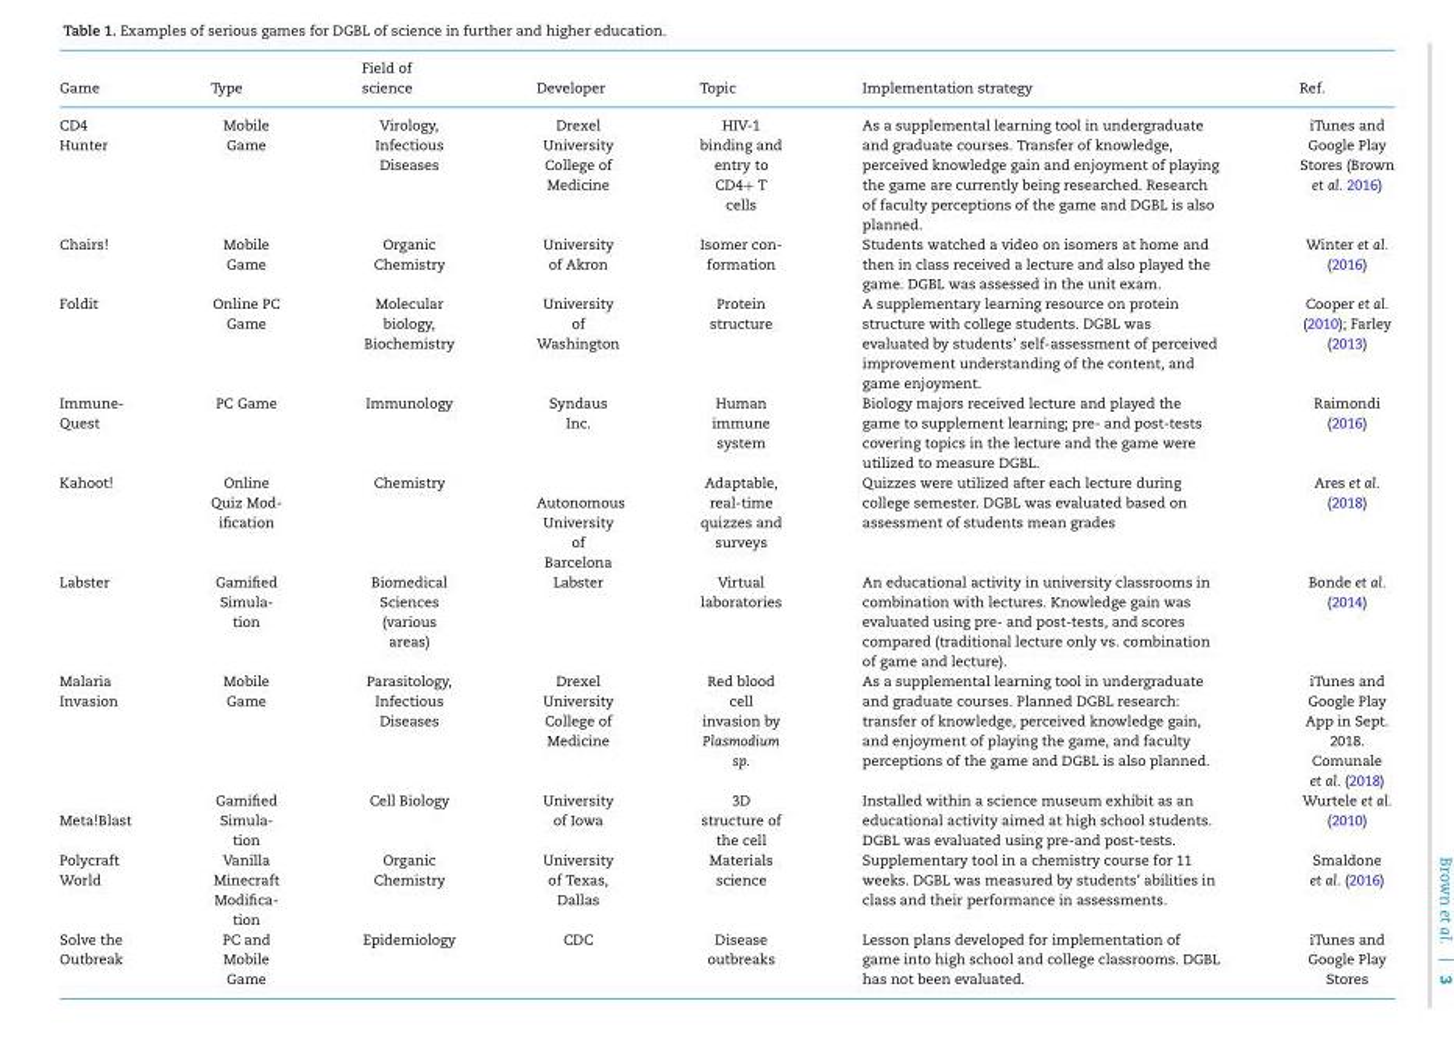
<table><thead><tr><td>Game</td><td>Type</td><td>Field of science</td><td>Developer</td><td>Topic</td><td>Implementation strategy</td><td>Ref.</td></tr></thead><tbody><tr><td>CD4 Hunter</td><td>Mobile Game</td><td>Virology, Infectious Diseases</td><td>Drexel University College of Medicine</td><td>HIV-1 binding and entry to CD4+ T cells</td><td>As a supplemental learning tool in undergraduate and graduate courses. Transfer of knowledge, perceived knowledge gain and enjoyment of playing the game are currently being researched. Research of faculty perceptions of the game and DGBL is also planned.</td><td>iTunes and Google Play Stores (Brown et al. <sup>2016</sup>)</td></tr><tr><td>Chairs!</td><td>Mobile Game</td><td>Organic Chemistry</td><td>University of Akron</td><td>Isomer con- formation</td><td>Students watched a video on isomers at home and then in class received a lecture and also played the game. DGBL was assessed in the unit exam.</td><td>Winter et al. (2016)</td></tr><tr><td>Foldit</td><td>Online PC Game</td><td>Molecular biology, Biochemistry</td><td>University of Washington</td><td>Protein structure</td><td>A supplementary learning resource on protein structure with college students. DGBL was evaluated by students’ self-assessment of perceived improvement understanding of the content, and game enjoyment.</td><td>Cooper et al. (2010); Farley (2013)</td></tr><tr><td>Immune- Quest</td><td>PC Game</td><td>Immunology</td><td>Syndaus Inc.</td><td>Human immune system</td><td>Biology majors received lecture and played the game to supplement learning; pre- and post-tests covering topics in the lecture and the game were utilized to measure DGBL.</td><td>Raimondi (2016)</td></tr><tr><td>Kahoot!</td><td>Online Quiz Mod- ification</td><td>Chemistry</td><td>Autonomous University of Barcelona</td><td>Adaptable, real-time quizzes and surveys</td><td>Quizzes were utilized after each lecture during college semester. DGBL was evaluated based on assessment of students mean grades</td><td>Ares et al. (2018)</td></tr><tr><td>Labster</td><td>Gamified Simula- tion</td><td>Biomedical Sciences (various areas)</td><td>Labster</td><td>Virtual laboratories</td><td>An educational activity in university classrooms in combination with lectures. Knowledge gain was evaluated using pre- and post-tests, and scores compared (traditional lecture only vs. combination of game and lecture).</td><td>Bonde et al. (2014)</td></tr><tr><td>Malaria Invasion</td><td>Mobile Game</td><td>Parasitology, Infectious Diseases</td><td>Drexel University College of Medicine</td><td>Red blood cell invasion by Plasmodium sp.</td><td>As a supplemental learning tool in undergraduate and graduate courses. Planned DGBL research: transfer of knowledge, perceived knowledge gain, and enjoyment of playing the game, and faculty perceptions of the game and DGBL is also planned.</td><td>iTunes and Google Play App in Sept. 2018. Comunale et al. (2018)</td></tr><tr><td>Meta!Blast</td><td>Gamified Simula- tion</td><td>Cell Biology</td><td>University of Iowa</td><td>3D structure of the cell</td><td>Installed within a science museum exhibit as an educational activity aimed at high school students. DGBL was evaluated using pre-and post-tests.</td><td>Wurtele et al. (2010)</td></tr><tr><td>Polycraft World</td><td>Vanilla Minecraft Modifica- tion</td><td>Organic Chemistry</td><td>University of Texas, Dallas</td><td>Materials science</td><td>Supplementary tool in a chemistry course for 11 weeks. DGBL was measured by students’ abilities in class and their performance in assessments.</td><td>Smaldone et al. (2016)</td></tr><tr><td>Solve the Outbreak</td><td>PC and Mobile Game</td><td>Epidemiology</td><td>CDC</td><td>Disease outbreaks</td><td>Lesson plans developed for implementation of game into high school and college classrooms. DGBL has not been evaluated.</td><td>iTunes and Google Play Stores</td></tr></tbody></table>